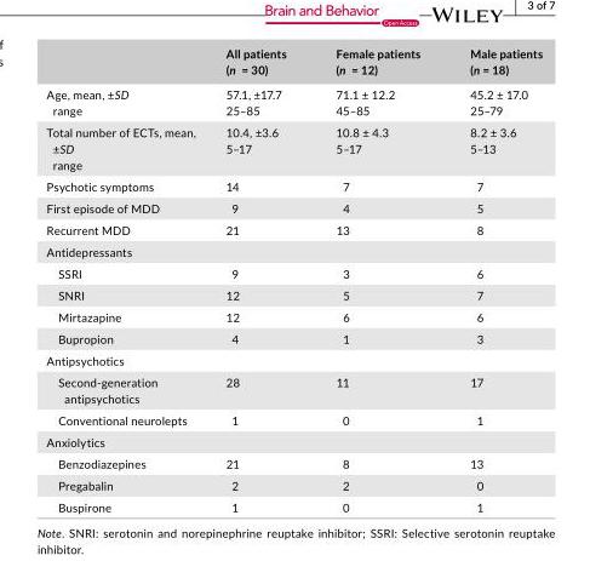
<table><thead><tr><td></td><td>All patients (n = 30)</td><td>Female patients (n = 12)</td><td>Male patients (n = 18)</td></tr></thead><tbody><tr><td>Age, mean, ±SD range</td><td>57.1, ±17.7 25–85</td><td>71.1 ± 12.2 45–85</td><td>45.2 ± 17.0 25–79</td></tr><tr><td>Total number of ECTs, mean, ±SD range</td><td>10.4, ±3.6 5–17</td><td>10.8 ± 4.3 5–17</td><td>8.2 ± 3.6 5–13</td></tr><tr><td>Psychotic symptoms</td><td>14</td><td>7</td><td>7</td></tr><tr><td>First episode of MDD</td><td>9</td><td>4</td><td>5</td></tr><tr><td>Recurrent MDD</td><td>21</td><td>13</td><td>8</td></tr><tr><td colspan="4">Antidepressants</td></tr><tr><td>SSRI</td><td>9</td><td>3</td><td>6</td></tr><tr><td>SNRI</td><td>12</td><td>5</td><td>7</td></tr><tr><td>Mirtazapine</td><td>12</td><td>6</td><td>6</td></tr><tr><td>Bupropion</td><td>4</td><td>1</td><td>3</td></tr><tr><td colspan="4">Antipsychotics</td></tr><tr><td>Second‐generation antipsychotics</td><td>28</td><td>11</td><td>17</td></tr><tr><td>Conventional neurolepts</td><td>1</td><td>0</td><td>1</td></tr><tr><td colspan="4">Anxiolytics</td></tr><tr><td>Benzodiazepines</td><td>21</td><td>8</td><td>13</td></tr><tr><td>Pregabalin</td><td>2</td><td>2</td><td>0</td></tr><tr><td>Buspirone</td><td>1</td><td>0</td><td>1</td></tr></tbody></table>